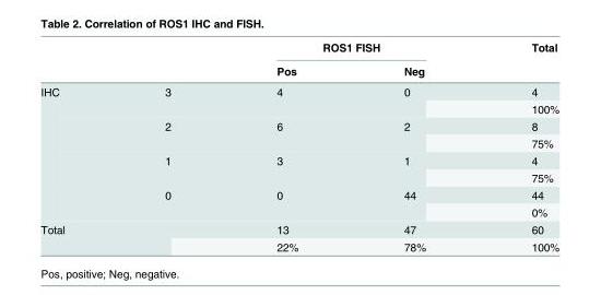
<table><thead><tr><td rowspan="2"></td><td rowspan="2"></td><td colspan="2">ROS1 FISH</td><td rowspan="2">Total</td></tr><tr><td>Pos</td><td>Neg</td></tr></thead><tbody><tr><td rowspan="8">IHC</td><td rowspan="2">3</td><td rowspan="2">4</td><td rowspan="2">0</td><td>4</td></tr><tr><td>100%</td></tr><tr><td rowspan="2">2</td><td rowspan="2">6</td><td rowspan="2">2</td><td>8</td></tr><tr><td>75%</td></tr><tr><td rowspan="2">1</td><td rowspan="2">3</td><td rowspan="2">1</td><td>4</td></tr><tr><td>75%</td></tr><tr><td rowspan="2">0</td><td rowspan="2">0</td><td rowspan="2">44</td><td>44</td></tr><tr><td>0%</td></tr><tr><td rowspan="2" colspan="2">Total</td><td>13</td><td>47</td><td>60</td></tr><tr><td>22%</td><td>78%</td><td>100%</td></tr></tbody></table>